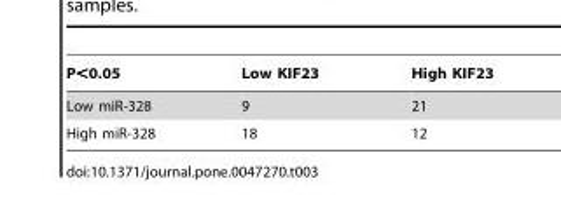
<table><thead><tr><td>P&lt;0.05</td><td>Low KIF23</td><td>High KIF23</td></tr></thead><tbody><tr><td>Low miR-328</td><td>9</td><td>21</td></tr><tr><td>High miR-328</td><td>18</td><td>12</td></tr></tbody></table>